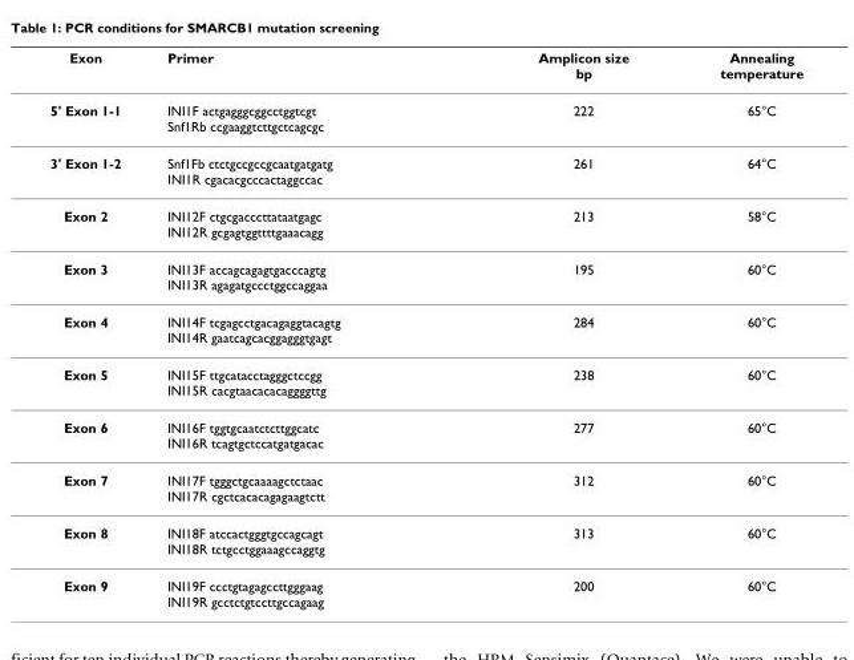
<table><thead><tr><td>Exon</td><td>Primer</td><td>Amplicon size bp</td><td>Annealing temperature</td></tr></thead><tbody><tr><td>5&#x27; Exon 1-1</td><td>INI1F actgagggcggcctggtcgt Snf1Rb ccgaaggtcttgctcagcgc</td><td>222</td><td>65°C</td></tr><tr><td>3&#x27; Exon 1-2</td><td>Snf1Fb ctctgccgccgcaatgatgatg INI1R cgacacgcccactaggccac</td><td>261</td><td>64°C</td></tr><tr><td>Exon 2</td><td>INI12F ctgcgacccttataatgagc INI12R gcgagtggttttgaaacagg</td><td>213</td><td>58°C</td></tr><tr><td>Exon 3</td><td>INI13F accagcagagtgacccagtg INI13R agagatgccctggccaggaa</td><td>195</td><td>60°C</td></tr><tr><td>Exon 4</td><td>INI14F tcgagcctgacagaggtacagtg INI14R gaatcagcacggagggtgagt</td><td>284</td><td>60°C</td></tr><tr><td>Exon 5</td><td>INI15F ttgcatacctagggctccgg INI15R cacgtaacacacaggggttg</td><td>238</td><td>60°C</td></tr><tr><td>Exon 6</td><td>INI16F tggtgcaatctcttggcatc INI16R tcagtgctccatgatgacac</td><td>277</td><td>60°C</td></tr><tr><td>Exon 7</td><td>INI17F tgggctgcaaaagctctaac INI17R cgctcacacagagaagtctt</td><td>312</td><td>60°C</td></tr><tr><td>Exon 8</td><td>INI18F atccactgggtgccagcagt INI18R tctgcctggaaagccaggtg</td><td>313</td><td>60°C</td></tr><tr><td>Exon 9</td><td>INI19F ccctgtagagccttgggaag INI19R gcctctgtccttgccagaag</td><td>200</td><td>60°C</td></tr></tbody></table>